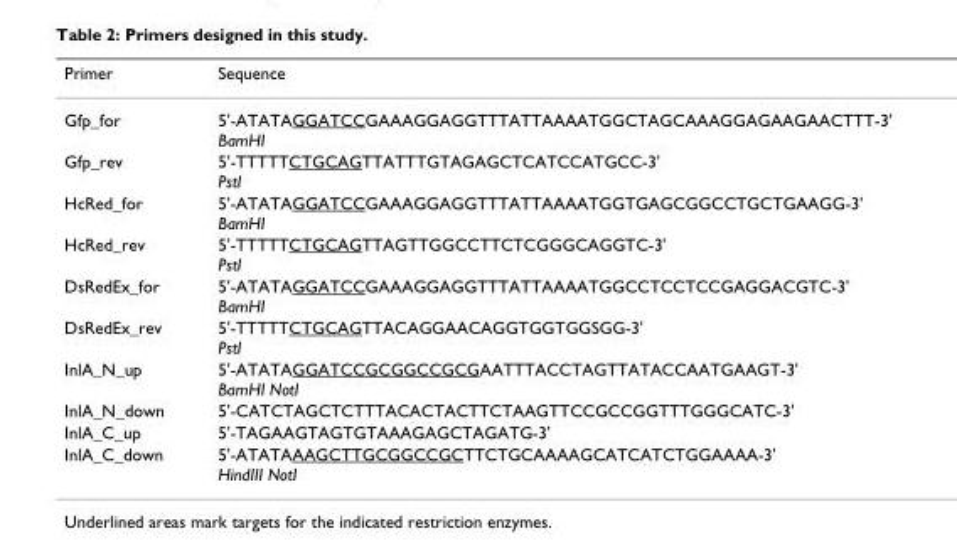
<table><thead><tr><td>Primer</td><td>Sequence</td></tr></thead><tbody><tr><td>Gfp_for</td><td>5&#x27;-ATATAGGATCCGAAAGGAGGTTTATTAAAATGGCTAGCAAAGGAGAAGAACTTT-3&#x27; BamHI</td></tr><tr><td>Gfp_rev</td><td>5&#x27;-TTTTTCTGCAGTTATTTGTAGAGCTCATCCATGCC-3&#x27; PstI</td></tr><tr><td>HcRed_for</td><td>5&#x27;-ATATAGGATCCGAAAGGAGGTTTATTAAAATGGTGAGCGGCCTGCTGAAGG-3&#x27; BamHI</td></tr><tr><td>HcRed_rev</td><td>5&#x27;-TTTTTCTGCAGTTAGTTGGCCTTCTCGGGCAGGTC-3&#x27; PstI</td></tr><tr><td>DsRedEx_for</td><td>5&#x27;-ATATAGGATCCGAAAGGAGGTTTATTAAAATGGCCTCCTCCGAGGACGTC-3&#x27; BamHI</td></tr><tr><td>DsRedEx_rev</td><td>5&#x27;-TTTTTCTGCAGTTACAGGAACAGGTGGTGGSGG-3&#x27; PstI</td></tr><tr><td>InlA_N_up</td><td>5&#x27;-ATATAGGATCCGCGGCCGCGAATTTACCTAGTTATACCAATGAAGT-3&#x27; BamHI NotI</td></tr><tr><td>InlA_N_down</td><td>5&#x27;-CATCTAGCTCTTTACACTACTTCTAAGTTCCGCCGGTTTGGGCATC-3&#x27;</td></tr><tr><td>InlA_C_up</td><td>5&#x27;-TAGAAGTAGTGTAAAGAGCTAGATG-3&#x27;</td></tr><tr><td>InlA_C_down</td><td>5&#x27;-ATATAAAGCTTGCGGCCGCTTCTGCAAAAGCATCATCTGGAAAA-3&#x27; HindIII NotI</td></tr></tbody></table>